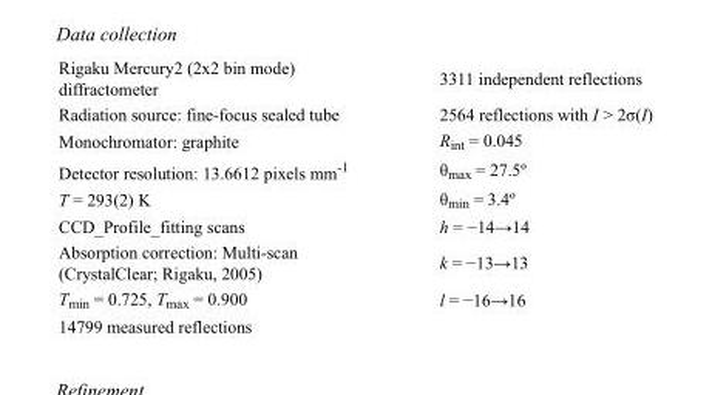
<table><tbody><tr><td>Rigaku Mercury2 (2x2 bin mode) diffractometer</td><td>3311 independent reflections</td></tr><tr><td>Radiation source: fine-focus sealed tube</td><td>2564 reflections with I &gt; 2σ(I)</td></tr><tr><td>Monochromator: graphite</td><td>R<sub>int</sub> = 0.045</td></tr><tr><td>Detector resolution: 13.6612 pixels mm<sup>-1</sup></td><td>θ<sub>max</sub> = 27.5º</td></tr><tr><td>T = 293(2) K</td><td>θ<sub>min</sub> = 3.4º</td></tr><tr><td>CCD_Profile_fitting scans</td><td>h = −14→14</td></tr><tr><td>Absorption correction: Multi-scan (CrystalClear; Rigaku, 2005)</td><td>k = −13→13</td></tr><tr><td>T<sub>min</sub> = 0.725, T<sub>max</sub> = 0.900</td><td>l = −16→16</td></tr><tr><td>14799 measured reflections</td><td></td></tr></tbody></table>